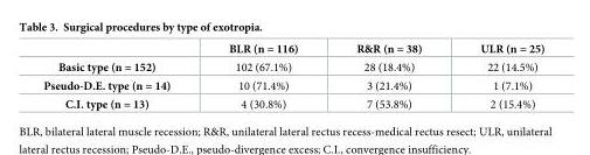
<table><thead><tr><td></td><td>BLR (n = 116)</td><td>R&amp;R (n = 38)</td><td>ULR (n = 25)</td></tr></thead><tbody><tr><td>Basic type (n = 152)</td><td>102 (67.1%)</td><td>28 (18.4%)</td><td>22 (14.5%)</td></tr><tr><td>Pseudo-D.E. type (n = 14)</td><td>10 (71.4%)</td><td>3 (21.4%)</td><td>1 (7.1%)</td></tr><tr><td>C.I. type (n = 13)</td><td>4 (30.8%)</td><td>7 (53.8%)</td><td>2 (15.4%)</td></tr></tbody></table>